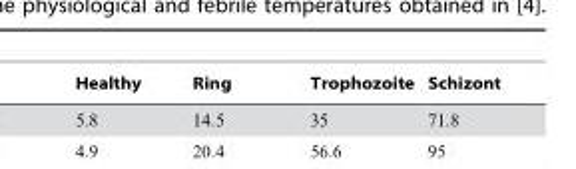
<table><thead><tr><td>Healthy</td><td>Ring</td><td>Trophozoite</td><td>Schizont</td></tr></thead><tbody></tbody></table>